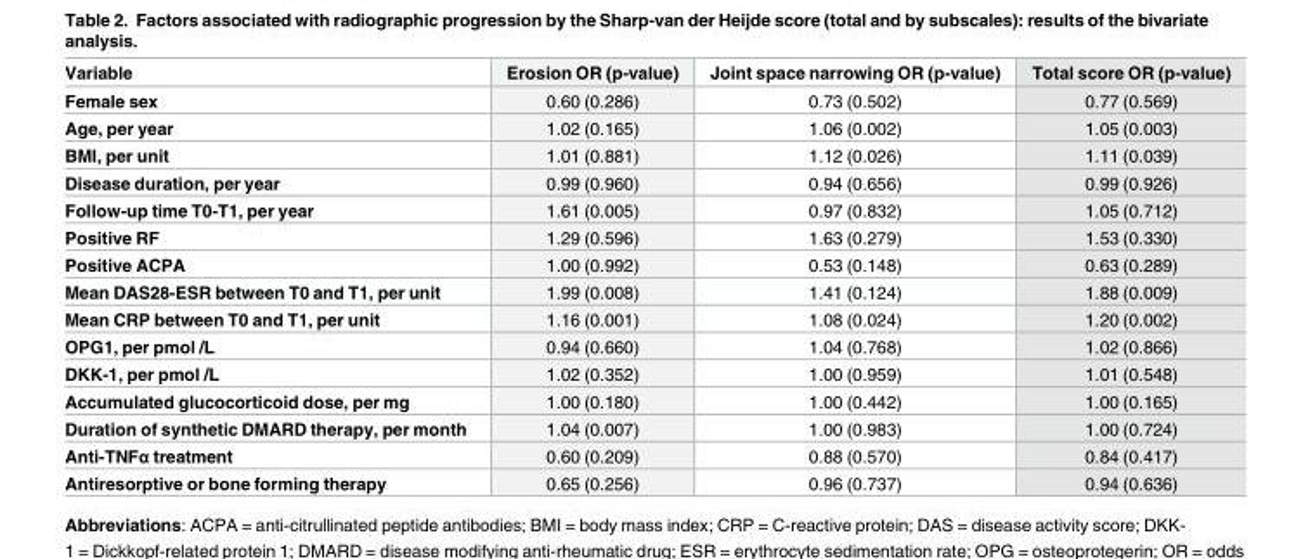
<table><thead><tr><td>Variable</td><td>Erosion OR (p-value)</td><td>Joint space narrowing OR (p-value)</td><td>Total score OR (p-value)</td></tr></thead><tbody><tr><td>Female sex</td><td>0.60 (0.286)</td><td>0.73 (0.502)</td><td>0.77 (0.569)</td></tr><tr><td>Age, per year</td><td>1.02 (0.165)</td><td>1.06 (0.002)</td><td>1.05 (0.003)</td></tr><tr><td>BMI, per unit</td><td>1.01 (0.881)</td><td>1.12 (0.026)</td><td>1.11 (0.039)</td></tr><tr><td>Disease duration, per year</td><td>0.99 (0.960)</td><td>0.94 (0.656)</td><td>0.99 (0.926)</td></tr><tr><td>Follow-up time T0-T1, per year</td><td>1.61 (0.005)</td><td>0.97 (0.832)</td><td>1.05 (0.712)</td></tr><tr><td>Positive RF</td><td>1.29 (0.596)</td><td>1.63 (0.279)</td><td>1.53 (0.330)</td></tr><tr><td>Positive ACPA</td><td>1.00 (0.992)</td><td>0.53 (0.148)</td><td>0.63 (0.289)</td></tr><tr><td>Mean DAS28-ESR between T0 and T1, per unit</td><td>1.99 (0.008)</td><td>1.41 (0.124)</td><td>1.88 (0.009)</td></tr><tr><td>Mean CRP between T0 and T1, per unit</td><td>1.16 (0.001)</td><td>1.08 (0.024)</td><td>1.20 (0.002)</td></tr><tr><td>OPG1, per pmol /L</td><td>0.94 (0.660)</td><td>1.04 (0.768)</td><td>1.02 (0.866)</td></tr><tr><td>DKK-1, per pmol /L</td><td>1.02 (0.352)</td><td>1.00 (0.959)</td><td>1.01 (0.548)</td></tr><tr><td>Accumulated glucocorticoid dose, per mg</td><td>1.00 (0.180)</td><td>1.00 (0.442)</td><td>1.00 (0.165)</td></tr><tr><td>Duration of synthetic DMARD therapy, per month</td><td>1.04 (0.007)</td><td>1.00 (0.983)</td><td>1.00 (0.724)</td></tr><tr><td>Anti-TNFα treatment</td><td>0.60 (0.209)</td><td>0.88 (0.570)</td><td>0.84 (0.417)</td></tr><tr><td>Antiresorptive or bone forming therapy</td><td>0.65 (0.256)</td><td>0.96 (0.737)</td><td>0.94 (0.636)</td></tr></tbody></table>